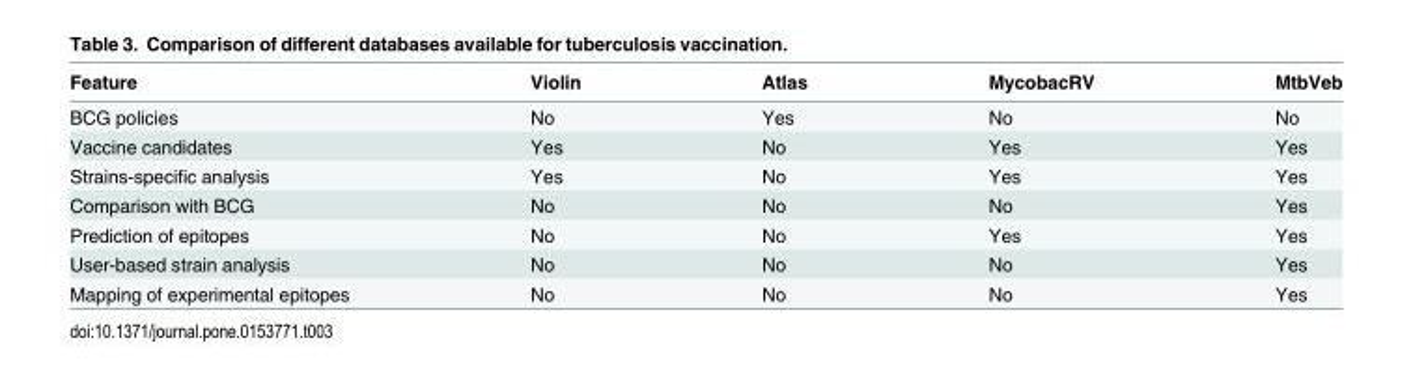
<table><thead><tr><td>Feature</td><td>Violin</td><td>Atlas</td><td>MycobacRV</td><td>MtbVeb</td></tr></thead><tbody><tr><td>BCG policies</td><td>No</td><td>Yes</td><td>No</td><td>No</td></tr><tr><td>Vaccine candidates</td><td>Yes</td><td>No</td><td>Yes</td><td>Yes</td></tr><tr><td>Strains-specific analysis</td><td>Yes</td><td>No</td><td>Yes</td><td>Yes</td></tr><tr><td>Comparison with BCG</td><td>No</td><td>No</td><td>No</td><td>Yes</td></tr><tr><td>Prediction of epitopes</td><td>No</td><td>No</td><td>Yes</td><td>Yes</td></tr><tr><td>User-based strain analysis</td><td>No</td><td>No</td><td>No</td><td>Yes</td></tr><tr><td>Mapping of experimental epitopes</td><td>No</td><td>No</td><td>No</td><td>Yes</td></tr></tbody></table>